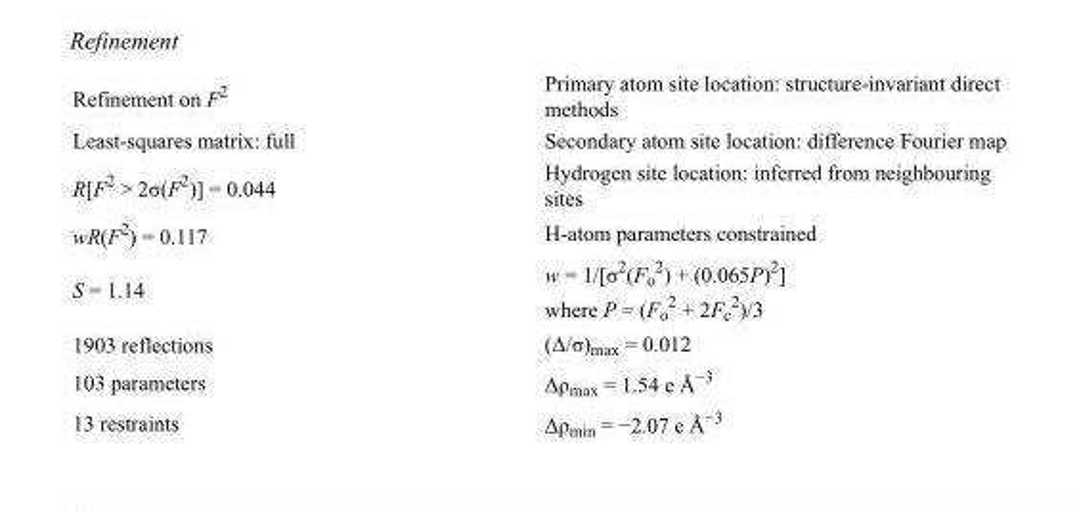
<table><tbody><tr><td>Refinement on F<sup>2</sup></td><td>Primary atom site location: structure-invariant direct methods</td></tr><tr><td>Least-squares matrix: full</td><td>Secondary atom site location: difference Fourier map</td></tr><tr><td>R[F<sup>2</sup> &gt; 2σ(F<sup>2</sup>)] = 0.044</td><td>Hydrogen site location: inferred from neighbouring sites</td></tr><tr><td>wR(F<sup>2</sup>) = 0.117</td><td>H-atom parameters constrained</td></tr><tr><td>S = 1.14</td><td>w = 1/[σ<sup>2</sup>(F<sub>o</sub> <sup>2</sup>) + (0.065P)<sup>2</sup>] where P = (F<sub>o</sub> <sup>2</sup> + 2F<sub>c</sub> <sup>2</sup>)/3</td></tr><tr><td>1903 reflections</td><td>(Δ/σ)<sub>max</sub> = 0.012</td></tr><tr><td>103 parameters</td><td>Δρ<sub>max</sub> = 1.54 e Å<sup>−3</sup></td></tr><tr><td>13 restraints</td><td>Δρ<sub>min</sub> = −2.07 e Å<sup>−3</sup></td></tr></tbody></table>